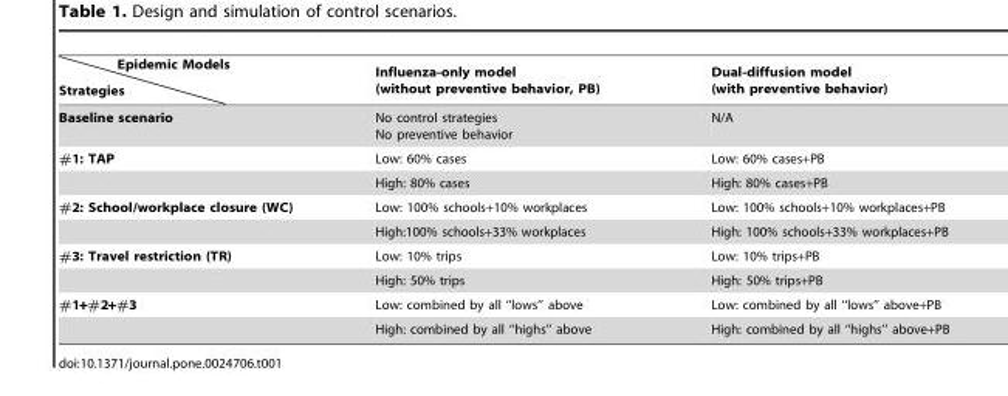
<table><thead><tr><td>Epidemic Models Strategies</td><td>Influenza-only model (without preventive behavior, PB)</td><td>Dual-diffusion model (with preventive behavior)</td></tr></thead><tbody><tr><td>Baseline scenario</td><td>No control strategies No preventive behavior</td><td>N/A</td></tr><tr><td rowspan="2">#1: TAP</td><td>Low: 60% cases</td><td>Low: 60% cases+PB</td></tr><tr><td>High: 80% cases</td><td>High: 80% cases+PB</td></tr><tr><td rowspan="2">#2: School/workplace closure (WC)</td><td>Low: 100% schools+10% workplaces</td><td>Low: 100% schools+10% workplaces+PB</td></tr><tr><td>High:100% schools+33% workplaces</td><td>High: 100% schools+33% workplaces+PB</td></tr><tr><td rowspan="2">#3: Travel restriction (TR)</td><td>Low: 10% trips</td><td>Low: 10% trips+PB</td></tr><tr><td>High: 50% trips</td><td>High: 50% trips+PB</td></tr><tr><td rowspan="2">#1+#2+#3</td><td>Low: combined by all ‘‘lows’’ above</td><td>Low: combined by all ‘‘lows’’ above+PB</td></tr><tr><td>High: combined by all ‘‘highs’’ above</td><td>High: combined by all ‘‘highs’’ above+PB</td></tr></tbody></table>